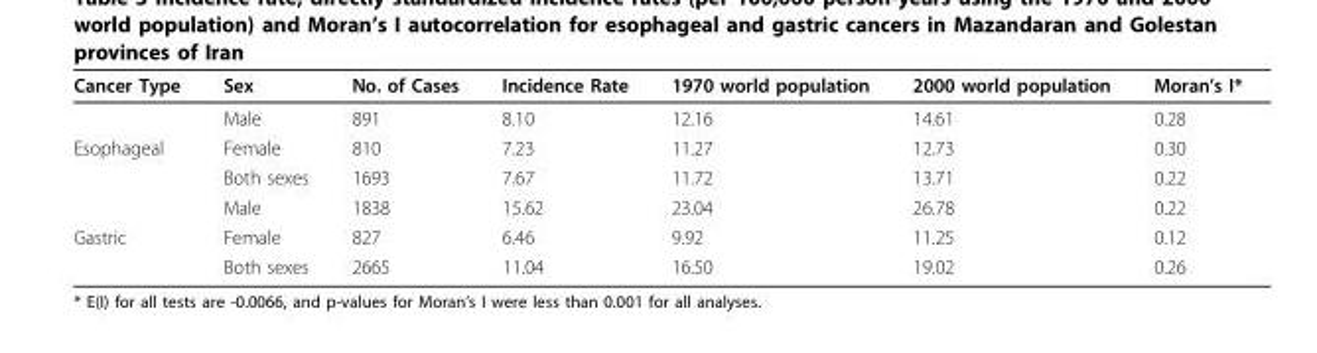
<table><thead><tr><td>Cancer Type</td><td>Sex</td><td>No. of Cases</td><td>Incidence Rate</td><td>1970 world population</td><td>2000 world population</td><td>Moran’s I*</td></tr></thead><tbody><tr><td></td><td>Male</td><td>891</td><td>8.10</td><td>12.16</td><td>14.61</td><td>0.28</td></tr><tr><td rowspan="3">Esophageal</td><td>Female</td><td>810</td><td>7.23</td><td>11.27</td><td>12.73</td><td>0.30</td></tr><tr><td>Both sexes</td><td>1693</td><td>7.67</td><td>11.72</td><td>13.71</td><td>0.22</td></tr><tr><td>Male</td><td>1838</td><td>15.62</td><td>23.04</td><td>26.78</td><td>0.22</td></tr><tr><td rowspan="2">Gastric</td><td>Female</td><td>827</td><td>6.46</td><td>9.92</td><td>11.25</td><td>0.12</td></tr><tr><td>Both sexes</td><td>2665</td><td>11.04</td><td>16.50</td><td>19.02</td><td>0.26</td></tr></tbody></table>